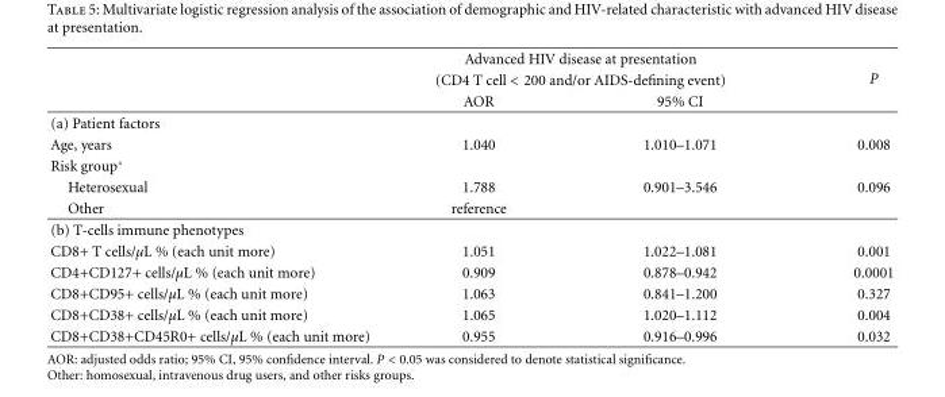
<table><thead><tr><td rowspan="3"></td><td rowspan="2" colspan="2">Advanced HIV disease at presentation (CD4 T cell &lt; 200 and/or AIDS-defining event)</td><td rowspan="3">P</td></tr><tr></tr><tr><td>AOR</td><td>95% CI</td></tr></thead><tbody><tr><td colspan="4">(a) Patient factors</td></tr><tr><td>Age, years</td><td>1.040</td><td>1.010–1.071</td><td>0.008</td></tr><tr><td colspan="4">Risk group◦</td></tr><tr><td>Heterosexual</td><td>1.788</td><td>0.901–3.546</td><td>0.096</td></tr><tr><td>Other</td><td>reference</td><td></td><td></td></tr><tr><td colspan="4">(b) T-cells immune phenotypes</td></tr><tr><td>CD8+ T cells/μL % (each unit more)</td><td>1.051</td><td>1.022–1.081</td><td>0.001</td></tr><tr><td>CD4+CD127+ cells/μL % (each unit more)</td><td>0.909</td><td>0.878–0.942</td><td>0.0001</td></tr><tr><td>CD8+CD95+ cells/μL % (each unit more)</td><td>1.063</td><td>0.841–1.200</td><td>0.327</td></tr><tr><td>CD8+CD38+ cells/μL % (each unit more)</td><td>1.065</td><td>1.020–1.112</td><td>0.004</td></tr><tr><td>CD8+CD38+CD45R0+ cells/μL % (each unit more)</td><td>0.955</td><td>0.916–0.996</td><td>0.032</td></tr></tbody></table>